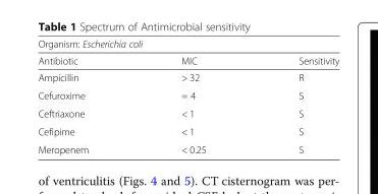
<table><thead><tr><td colspan="3">Organism: Escherichia coli</td></tr><tr><td>Antibiotic</td><td>MIC</td><td>Sensitivity</td></tr></thead><tbody><tr><td>Ampicillin</td><td>&gt; 32</td><td>R</td></tr><tr><td>Cefuroxime</td><td>= 4</td><td>S</td></tr><tr><td>Ceftriaxone</td><td>&lt; 1</td><td>S</td></tr><tr><td>Cefipime</td><td>&lt; 1</td><td>S</td></tr><tr><td>Meropenem</td><td>&lt; 0.25</td><td>S</td></tr></tbody></table>